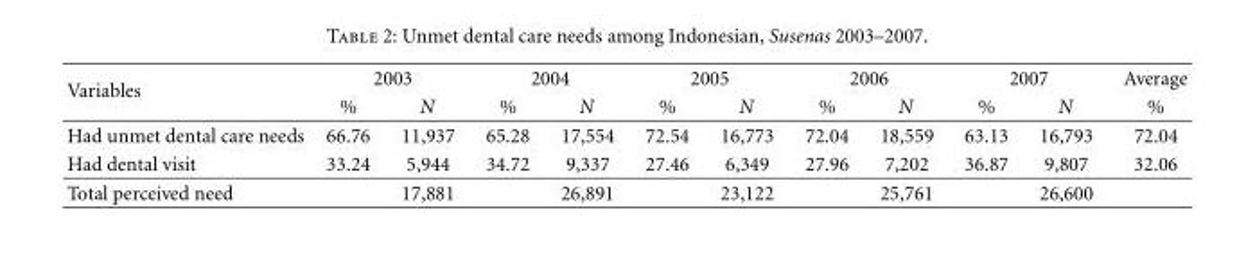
<table><thead><tr><td rowspan="2">Variables</td><td colspan="2">2003</td><td colspan="2">2004</td><td colspan="2">2005</td><td colspan="2">2006</td><td colspan="2">2007</td><td rowspan="2">Average %</td></tr><tr><td>%</td><td>N</td><td>%</td><td>N</td><td>%</td><td>N</td><td>%</td><td>N</td><td>%</td><td>N</td></tr></thead><tbody><tr><td>Had unmet dental care needs</td><td>66.76</td><td>11,937</td><td>65.28</td><td>17,554</td><td>72.54</td><td>16,773</td><td>72.04</td><td>18,559</td><td>63.13</td><td>16,793</td><td>72.04</td></tr><tr><td>Had dental visit</td><td>33.24</td><td>5,944</td><td>34.72</td><td>9,337</td><td>27.46</td><td>6,349</td><td>27.96</td><td>7,202</td><td>36.87</td><td>9,807</td><td>32.06</td></tr><tr><td>Total perceived need</td><td></td><td>17,881</td><td></td><td>26,891</td><td></td><td>23,122</td><td></td><td>25,761</td><td></td><td>26,600</td><td></td></tr></tbody></table>